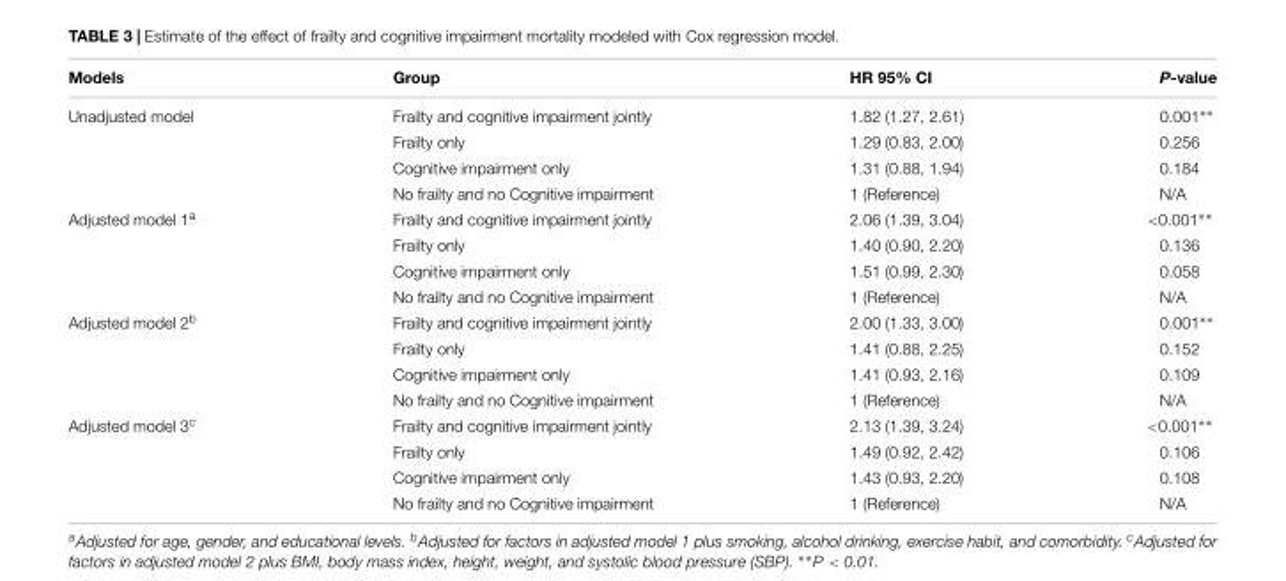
<table><thead><tr><td>Models</td><td>Group</td><td>HR 95% CI</td><td>P-value</td></tr></thead><tbody><tr><td rowspan="4">Unadjusted model</td><td>Frailty and cognitive impairment jointly</td><td>1.82 (1.27, 2.61)</td><td>0.001∗∗</td></tr><tr><td>Frailty only</td><td>1.29 (0.83, 2.00)</td><td>0.256</td></tr><tr><td>Cognitive impairment only</td><td>1.31 (0.88, 1.94)</td><td>0.184</td></tr><tr><td>No frailty and no Cognitive impairment</td><td>1 (Reference)</td><td>N/A</td></tr><tr><td rowspan="4">Adjusted model 1<sup>a</sup></td><td>Frailty and cognitive impairment jointly</td><td>2.06 (1.39, 3.04)</td><td>&lt;0.001∗∗</td></tr><tr><td>Frailty only</td><td>1.40 (0.90, 2.20)</td><td>0.136</td></tr><tr><td>Cognitive impairment only</td><td>1.51 (0.99, 2.30)</td><td>0.058</td></tr><tr><td>No frailty and no Cognitive impairment</td><td>1 (Reference)</td><td>N/A</td></tr><tr><td rowspan="4">Adjusted model 2<sup>b</sup></td><td>Frailty and cognitive impairment jointly</td><td>2.00 (1.33, 3.00)</td><td>0.001∗∗</td></tr><tr><td>Frailty only</td><td>1.41 (0.88, 2.25)</td><td>0.152</td></tr><tr><td>Cognitive impairment only</td><td>1.41 (0.93, 2.16)</td><td>0.109</td></tr><tr><td>No frailty and no Cognitive impairment</td><td>1 (Reference)</td><td>N/A</td></tr><tr><td rowspan="4">Adjusted model 3<sup>c</sup></td><td>Frailty and cognitive impairment jointly</td><td>2.13 (1.39, 3.24)</td><td>&lt;0.001∗∗</td></tr><tr><td>Frailty only</td><td>1.49 (0.92, 2.42)</td><td>0.106</td></tr><tr><td>Cognitive impairment only</td><td>1.43 (0.93, 2.20)</td><td>0.108</td></tr><tr><td>No frailty and no Cognitive impairment</td><td>1 (Reference)</td><td>N/A</td></tr></tbody></table>